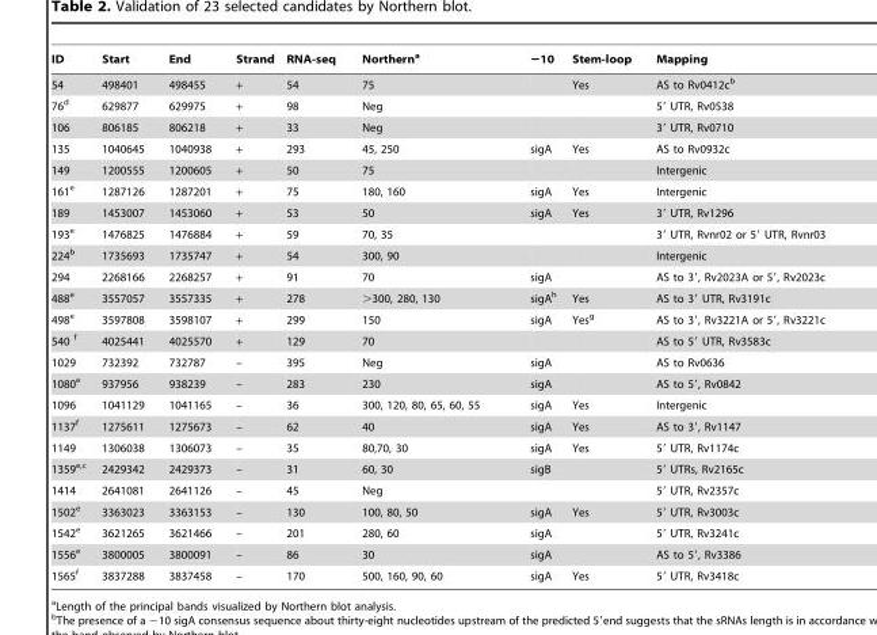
<table><thead><tr><td>ID</td><td>Start</td><td>End</td><td>Strand</td><td>RNA-seq</td><td>Northern<sup>a</sup></td><td>−10</td><td>Stem-loop</td><td>Mapping</td></tr></thead><tbody><tr><td>54</td><td>498401</td><td>498455</td><td>+</td><td>54</td><td>75</td><td></td><td>Yes</td><td>AS to Rv0412c<sup>b</sup></td></tr><tr><td>76<sup>d</sup></td><td>629877</td><td>629975</td><td>+</td><td>98</td><td>Neg</td><td></td><td></td><td>5′ UTR, Rv0538</td></tr><tr><td>106</td><td>806185</td><td>806218</td><td>+</td><td>33</td><td>Neg</td><td></td><td></td><td>3′ UTR, Rv0710</td></tr><tr><td>135</td><td>1040645</td><td>1040938</td><td>+</td><td>293</td><td>45, 250</td><td>sigA</td><td>Yes</td><td>AS to Rv0932c</td></tr><tr><td>149</td><td>1200555</td><td>1200605</td><td>+</td><td>50</td><td>75</td><td></td><td></td><td>Intergenic</td></tr><tr><td>161<sup>e</sup></td><td>1287126</td><td>1287201</td><td>+</td><td>75</td><td>180, 160</td><td>sigA</td><td>Yes</td><td>Intergenic</td></tr><tr><td>189</td><td>1453007</td><td>1453060</td><td>+</td><td>53</td><td>50</td><td>sigA</td><td>Yes</td><td>3′ UTR, Rv1296</td></tr><tr><td>193<sup>e</sup></td><td>1476825</td><td>1476884</td><td>+</td><td>59</td><td>70, 35</td><td></td><td></td><td>3′ UTR, Rvnr02 or 5′ UTR, Rvnr03</td></tr><tr><td>224<sup>b</sup></td><td>1735693</td><td>1735747</td><td>+</td><td>54</td><td>300, 90</td><td></td><td></td><td>Intergenic</td></tr><tr><td>294</td><td>2268166</td><td>2268257</td><td>+</td><td>91</td><td>70</td><td>sigA</td><td></td><td>AS to 3′, Rv2023A or 5′, Rv2023c</td></tr><tr><td>488<sup>e</sup></td><td>3557057</td><td>3557335</td><td>+</td><td>278</td><td>&gt;300, 280, 130</td><td>sigA<sup>h</sup></td><td>Yes</td><td>AS to 3′ UTR, Rv3191c</td></tr><tr><td>498<sup>e</sup></td><td>3597808</td><td>3598107</td><td>+</td><td>299</td><td>150</td><td>sigA</td><td>Yes<sup>g</sup></td><td>AS to 3′, Rv3221A or 5′, Rv3221c</td></tr><tr><td>540 f</td><td>4025441</td><td>4025570</td><td>+</td><td>129</td><td>70</td><td></td><td></td><td>AS to 5′ UTR, Rv3583c</td></tr><tr><td>1029</td><td>732392</td><td>732787</td><td>–</td><td>395</td><td>Neg</td><td>sigA</td><td></td><td>AS to Rv0636</td></tr><tr><td>1080<sup>e</sup></td><td>937956</td><td>938239</td><td>–</td><td>283</td><td>230</td><td>sigA</td><td></td><td>AS to 5′, Rv0842</td></tr><tr><td>1096</td><td>1041129</td><td>1041165</td><td>–</td><td>36</td><td>300, 120, 80, 65, 60, 55</td><td>sigA</td><td>Yes</td><td>Intergenic</td></tr><tr><td>1137<sup>f</sup></td><td>1275611</td><td>1275673</td><td>–</td><td>62</td><td>40</td><td>sigA</td><td>Yes</td><td>AS to 3′, Rv1147</td></tr><tr><td>1149</td><td>1306038</td><td>1306073</td><td>–</td><td>35</td><td>80,70, 30</td><td>sigA</td><td>Yes</td><td>5′ UTR, Rv1174c</td></tr><tr><td>1359e,c</td><td>2429342</td><td>2429373</td><td>–</td><td>31</td><td>60, 30</td><td>sigB</td><td></td><td>5′ UTRs, Rv2165c</td></tr><tr><td>1414</td><td>2641081</td><td>2641126</td><td>–</td><td>45</td><td>Neg</td><td></td><td></td><td>5′ UTR, Rv2357c</td></tr><tr><td>1502<sup>e</sup></td><td>3363023</td><td>3363153</td><td>–</td><td>130</td><td>100, 80, 50</td><td>sigA</td><td>Yes</td><td>5′ UTR, Rv3003c</td></tr><tr><td>1542<sup>e</sup></td><td>3621265</td><td>3621466</td><td>–</td><td>201</td><td>280, 60</td><td>sigA</td><td></td><td>5′ UTR, Rv3241c</td></tr><tr><td>1556<sup>e</sup></td><td>3800005</td><td>3800091</td><td>–</td><td>86</td><td>30</td><td>sigA</td><td></td><td>AS to 5′, Rv3386</td></tr><tr><td>1565<sup>f</sup></td><td>3837288</td><td>3837458</td><td>–</td><td>170</td><td>500, 160, 90, 60</td><td>sigA</td><td>Yes</td><td>5′ UTR, Rv3418c</td></tr></tbody></table>